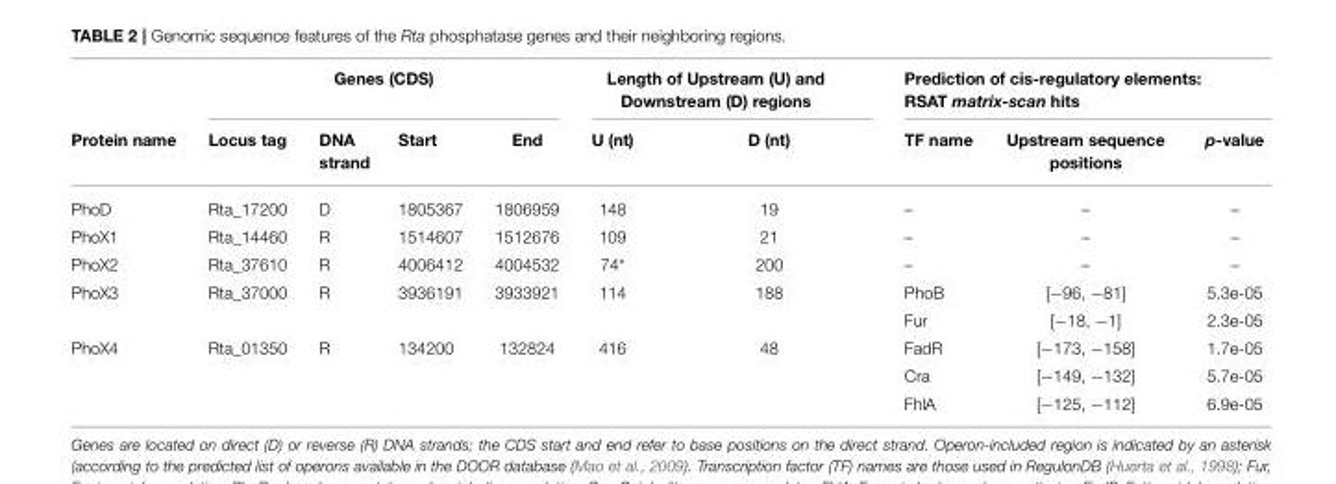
<table><thead><tr><td rowspan="2">Protein name</td><td colspan="4">Genes (CDS)</td><td colspan="2">Length of Upstream (U) and Downstream (D) regions</td><td colspan="3">Prediction of cis-regulatory elements: RSAT matrix-scan hits</td></tr><tr><td>Locus tag</td><td>DNA strand</td><td>Start</td><td>End</td><td>U (nt)</td><td>D (nt)</td><td>TF name</td><td>Upstream sequence positions</td><td>p-value</td></tr></thead><tbody><tr><td>PhoD</td><td>Rta_17200</td><td>D</td><td>1805367</td><td>1806959</td><td>148</td><td>19</td><td>–</td><td>–</td><td>–</td></tr><tr><td>PhoX1</td><td>Rta_14460</td><td>R</td><td>1514607</td><td>1512676</td><td>109</td><td>21</td><td>–</td><td>–</td><td>–</td></tr><tr><td>PhoX2</td><td>Rta_37610</td><td>R</td><td>4006412</td><td>4004532</td><td>74*</td><td>200</td><td>–</td><td>–</td><td>–</td></tr><tr><td rowspan="2">PhoX3</td><td>Rta_37000</td><td>R</td><td>3936191</td><td>3933921</td><td>114</td><td>188</td><td>PhoB</td><td>[−96, −81]</td><td>5.3e-05</td></tr><tr><td></td><td></td><td></td><td></td><td></td><td></td><td>Fur</td><td>[−18, −1]</td><td>2.3e-05</td></tr><tr><td rowspan="3">PhoX4</td><td>Rta_01350</td><td>R</td><td>134200</td><td>132824</td><td>416</td><td>48</td><td>FadR</td><td>[−173, −158]</td><td>1.7e-05</td></tr><tr><td></td><td></td><td></td><td></td><td></td><td></td><td>Cra</td><td>[−149, −132]</td><td>5.7e-05</td></tr><tr><td></td><td></td><td></td><td></td><td></td><td></td><td>FhlA</td><td>[−125, −112]</td><td>6.9e-05</td></tr></tbody></table>